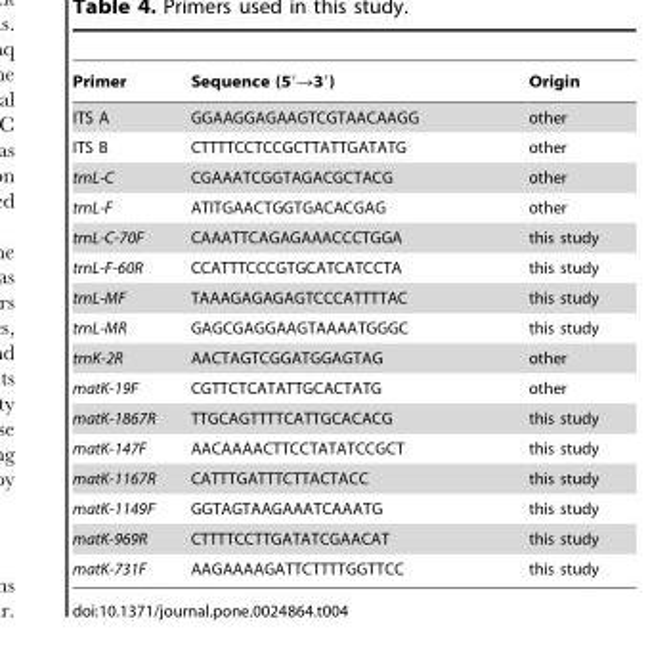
<table><thead><tr><td>Primer</td><td>Sequence (5′→3′)</td><td>Origin</td></tr></thead><tbody><tr><td>ITS A</td><td>GGAAGGAGAAGTCGTAACAAGG</td><td>other</td></tr><tr><td>ITS B</td><td>CTTTTCCTCCGCTTATTGATATG</td><td>other</td></tr><tr><td>trnL-C</td><td>CGAAATCGGTAGACGCTACG</td><td>other</td></tr><tr><td>trnL-F</td><td>ATITGAACTGGTGACACGAG</td><td>other</td></tr><tr><td>trnL-C-70F</td><td>CAAATTCAGAGAAACCCTGGA</td><td>this study</td></tr><tr><td>trnL-F-60R</td><td>CCATTTCCCGTGCATCATCCTA</td><td>this study</td></tr><tr><td>trnL-MF</td><td>TAAAGAGAGAGTCCCATTTTAC</td><td>this study</td></tr><tr><td>trnL-MR</td><td>GAGCGAGGAAGTAAAATGGGC</td><td>this study</td></tr><tr><td>trnK-2R</td><td>AACTAGTCGGATGGAGTAG</td><td>other</td></tr><tr><td>matK-19F</td><td>CGTTCTCATATTGCACTATG</td><td>other</td></tr><tr><td>matK-1867R</td><td>TTGCAGTTTTCATTGCACACG</td><td>this study</td></tr><tr><td>matK-147F</td><td>AACAAAACTTCCTATATCCGCT</td><td>this study</td></tr><tr><td>matK-1167R</td><td>CATTTGATTTCTTACTACC</td><td>this study</td></tr><tr><td>matK-1149F</td><td>GGTAGTAAGAAATCAAATG</td><td>this study</td></tr><tr><td>matK-969R</td><td>CTTTTCCTTGATATCGAACAT</td><td>this study</td></tr><tr><td>matK-731F</td><td>AAGAAAAGATTCTTTTGGTTCC</td><td>this study</td></tr></tbody></table>